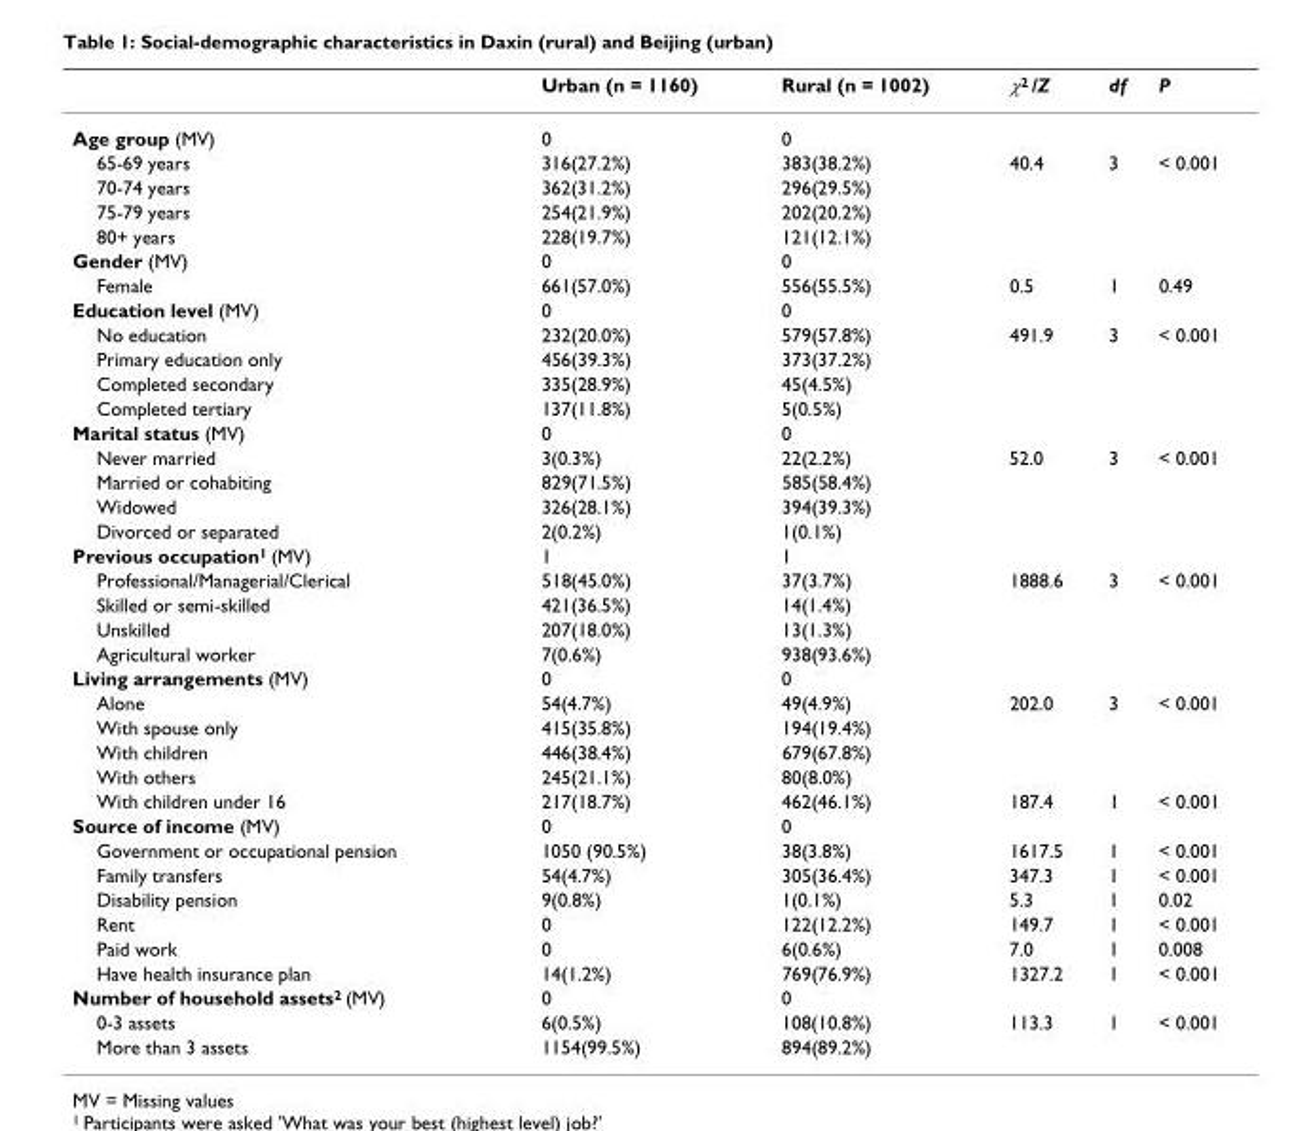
<table><thead><tr><td></td><td>Urban (n = 1160)</td><td>Rural (n = 1002)</td><td>χ<sup>2</sup> /Z</td><td>df</td><td>P</td></tr></thead><tbody><tr><td>Age group (MV)</td><td>0</td><td>0</td><td></td><td></td><td></td></tr><tr><td>65-69 years</td><td>316(27.2%)</td><td>383(38.2%)</td><td>40.4</td><td>3</td><td>&lt; 0.001</td></tr><tr><td>70-74 years</td><td>362(31.2%)</td><td>296(29.5%)</td><td></td><td></td><td></td></tr><tr><td>75-79 years</td><td>254(21.9%)</td><td>202(20.2%)</td><td></td><td></td><td></td></tr><tr><td>80+ years</td><td>228(19.7%)</td><td>121(12.1%)</td><td></td><td></td><td></td></tr><tr><td>Gender (MV)</td><td>0</td><td>0</td><td></td><td></td><td></td></tr><tr><td>Female</td><td>661(57.0%)</td><td>556(55.5%)</td><td>0.5</td><td>1</td><td>0.49</td></tr><tr><td>Education level (MV)</td><td>0</td><td>0</td><td></td><td></td><td></td></tr><tr><td>No education</td><td>232(20.0%)</td><td>579(57.8%)</td><td>491.9</td><td>3</td><td>&lt; 0.001</td></tr><tr><td>Primary education only</td><td>456(39.3%)</td><td>373(37.2%)</td><td></td><td></td><td></td></tr><tr><td>Completed secondary</td><td>335(28.9%)</td><td>45(4.5%)</td><td></td><td></td><td></td></tr><tr><td>Completed tertiary</td><td>137(11.8%)</td><td>5(0.5%)</td><td></td><td></td><td></td></tr><tr><td>Marital status (MV)</td><td>0</td><td>0</td><td></td><td></td><td></td></tr><tr><td>Never married</td><td>3(0.3%)</td><td>22(2.2%)</td><td>52.0</td><td>3</td><td>&lt; 0.001</td></tr><tr><td>Married or cohabiting</td><td>829(71.5%)</td><td>585(58.4%)</td><td></td><td></td><td></td></tr><tr><td>Widowed</td><td>326(28.1%)</td><td>394(39.3%)</td><td></td><td></td><td></td></tr><tr><td>Divorced or separated</td><td>2(0.2%)</td><td>1(0.1%)</td><td></td><td></td><td></td></tr><tr><td>Previous occupation<sup>1</sup> (MV)</td><td>1</td><td>1</td><td></td><td></td><td></td></tr><tr><td>Professional/Managerial/Clerical</td><td>518(45.0%)</td><td>37(3.7%)</td><td>1888.6</td><td>3</td><td>&lt; 0.001</td></tr><tr><td>Skilled or semi-skilled</td><td>421(36.5%)</td><td>14(1.4%)</td><td></td><td></td><td></td></tr><tr><td>Unskilled</td><td>207(18.0%)</td><td>13(1.3%)</td><td></td><td></td><td></td></tr><tr><td>Agricultural worker</td><td>7(0.6%)</td><td>938(93.6%)</td><td></td><td></td><td></td></tr><tr><td>Living arrangements (MV)</td><td>0</td><td>0</td><td></td><td></td><td></td></tr><tr><td>Alone</td><td>54(4.7%)</td><td>49(4.9%)</td><td>202.0</td><td>3</td><td>&lt; 0.001</td></tr><tr><td>With spouse only</td><td>415(35.8%)</td><td>194(19.4%)</td><td></td><td></td><td></td></tr><tr><td>With children</td><td>446(38.4%)</td><td>679(67.8%)</td><td></td><td></td><td></td></tr><tr><td>With others</td><td>245(21.1%)</td><td>80(8.0%)</td><td></td><td></td><td></td></tr><tr><td>With children under 16</td><td>217(18.7%)</td><td>462(46.1%)</td><td>187.4</td><td>1</td><td>&lt; 0.001</td></tr><tr><td>Source of income (MV)</td><td>0</td><td>0</td><td></td><td></td><td></td></tr><tr><td>Government or occupational pension</td><td>1050 (90.5%)</td><td>38(3.8%)</td><td>1617.5</td><td>1</td><td>&lt; 0.001</td></tr><tr><td>Family transfers</td><td>54(4.7%)</td><td>305(36.4%)</td><td>347.3</td><td>1</td><td>&lt; 0.001</td></tr><tr><td>Disability pension</td><td>9(0.8%)</td><td>1(0.1%)</td><td>5.3</td><td>1</td><td>0.02</td></tr><tr><td>Rent</td><td>0</td><td>122(12.2%)</td><td>149.7</td><td>1</td><td>&lt; 0.001</td></tr><tr><td>Paid work</td><td>0</td><td>6(0.6%)</td><td>7.0</td><td>1</td><td>0.008</td></tr><tr><td>Have health insurance plan</td><td>14(1.2%)</td><td>769(76.9%)</td><td>1327.2</td><td>1</td><td>&lt; 0.001</td></tr><tr><td>Number of household assets<sup>2</sup> (MV)</td><td>0</td><td>0</td><td></td><td></td><td></td></tr><tr><td>0-3 assets</td><td>6(0.5%)</td><td>108(10.8%)</td><td>113.3</td><td>1</td><td>&lt; 0.001</td></tr><tr><td>More than 3 assets</td><td>1154(99.5%)</td><td>894(89.2%)</td><td></td><td></td><td></td></tr></tbody></table>